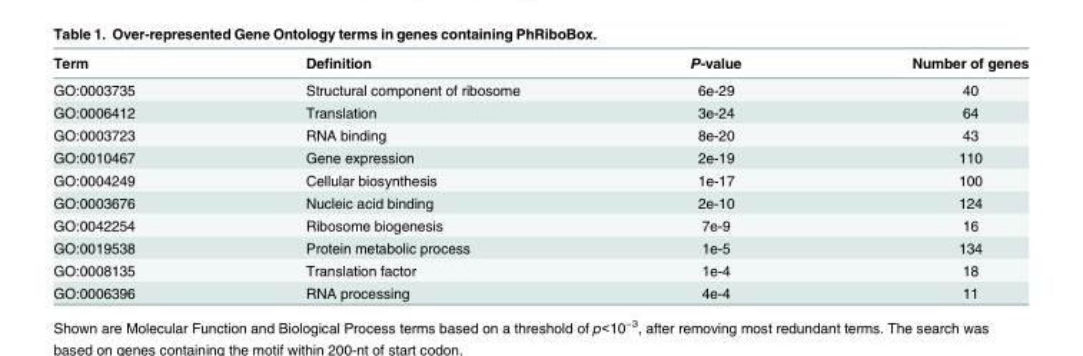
<table><thead><tr><td>Term</td><td>Definition</td><td>P-value</td><td>Number of genes</td></tr></thead><tbody><tr><td>GO:0003735</td><td>Structural component of ribosome</td><td>6e-29</td><td>40</td></tr><tr><td>GO:0006412</td><td>Translation</td><td>3e-24</td><td>64</td></tr><tr><td>GO:0003723</td><td>RNA binding</td><td>8e-20</td><td>43</td></tr><tr><td>GO:0010467</td><td>Gene expression</td><td>2e-19</td><td>110</td></tr><tr><td>GO:0004249</td><td>Cellular biosynthesis</td><td>1e-17</td><td>100</td></tr><tr><td>GO:0003676</td><td>Nucleic acid binding</td><td>2e-10</td><td>124</td></tr><tr><td>GO:0042254</td><td>Ribosome biogenesis</td><td>7e-9</td><td>16</td></tr><tr><td>GO:0019538</td><td>Protein metabolic process</td><td>1e-5</td><td>134</td></tr><tr><td>GO:0008135</td><td>Translation factor</td><td>1e-4</td><td>18</td></tr><tr><td>GO:0006396</td><td>RNA processing</td><td>4e-4</td><td>11</td></tr></tbody></table>